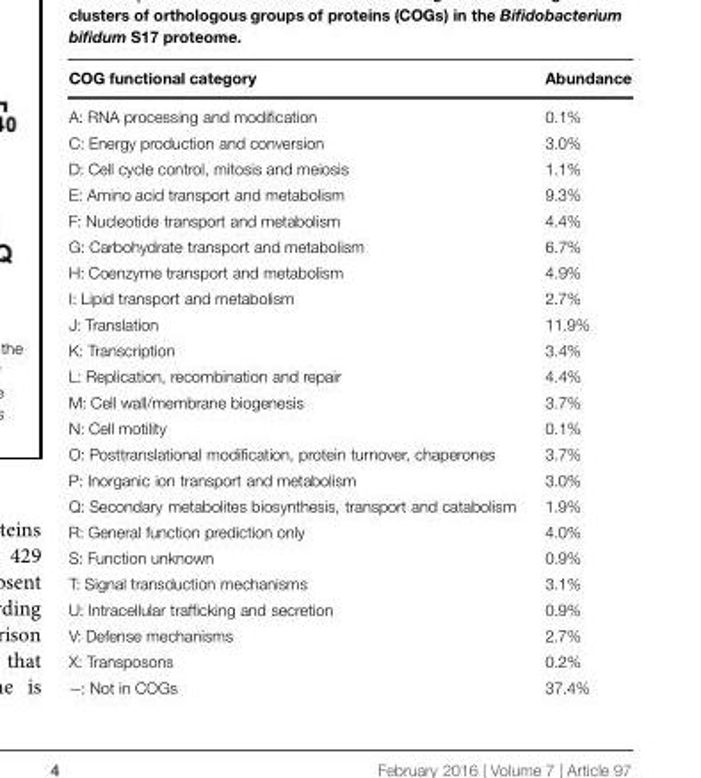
<table><thead><tr><td>COG functional category</td><td>Abundance</td></tr></thead><tbody><tr><td>A: RNA processing and modification</td><td>0.1%</td></tr><tr><td>C: Energy production and conversion</td><td>3.0%</td></tr><tr><td>D: Cell cycle control, mitosis and meiosis</td><td>1.1%</td></tr><tr><td>E: Amino acid transport and metabolism</td><td>9.3%</td></tr><tr><td>F: Nucleotide transport and metabolism</td><td>4.4%</td></tr><tr><td>G: Carbohydrate transport and metabolism</td><td>6.7%</td></tr><tr><td>H: Coenzyme transport and metabolism</td><td>4.9%</td></tr><tr><td>I: Lipid transport and metabolism</td><td>2.7%</td></tr><tr><td>J: Translation</td><td>11.9%</td></tr><tr><td>K: Transcription</td><td>3.4%</td></tr><tr><td>L: Replication, recombination and repair</td><td>4.4%</td></tr><tr><td>M: Cell wall/membrane biogenesis</td><td>3.7%</td></tr><tr><td>N: Cell motility</td><td>0.1%</td></tr><tr><td>O: Posttranslational modification, protein turnover, chaperones</td><td>3.7%</td></tr><tr><td>P: Inorganic ion transport and metabolism</td><td>3.0%</td></tr><tr><td>Q: Secondary metabolites biosynthesis, transport and catabolism</td><td>1.9%</td></tr><tr><td>R: General function prediction only</td><td>4.0%</td></tr><tr><td>S: Function unknown</td><td>0.9%</td></tr><tr><td>T: Signal transduction mechanisms</td><td>3.1%</td></tr><tr><td>U: Intracellular trafficking and secretion</td><td>0.9%</td></tr><tr><td>V: Defense mechanisms</td><td>2.7%</td></tr><tr><td>X: Transposons</td><td>0.2%</td></tr><tr><td>−: Not in COGs</td><td>37.4%</td></tr></tbody></table>